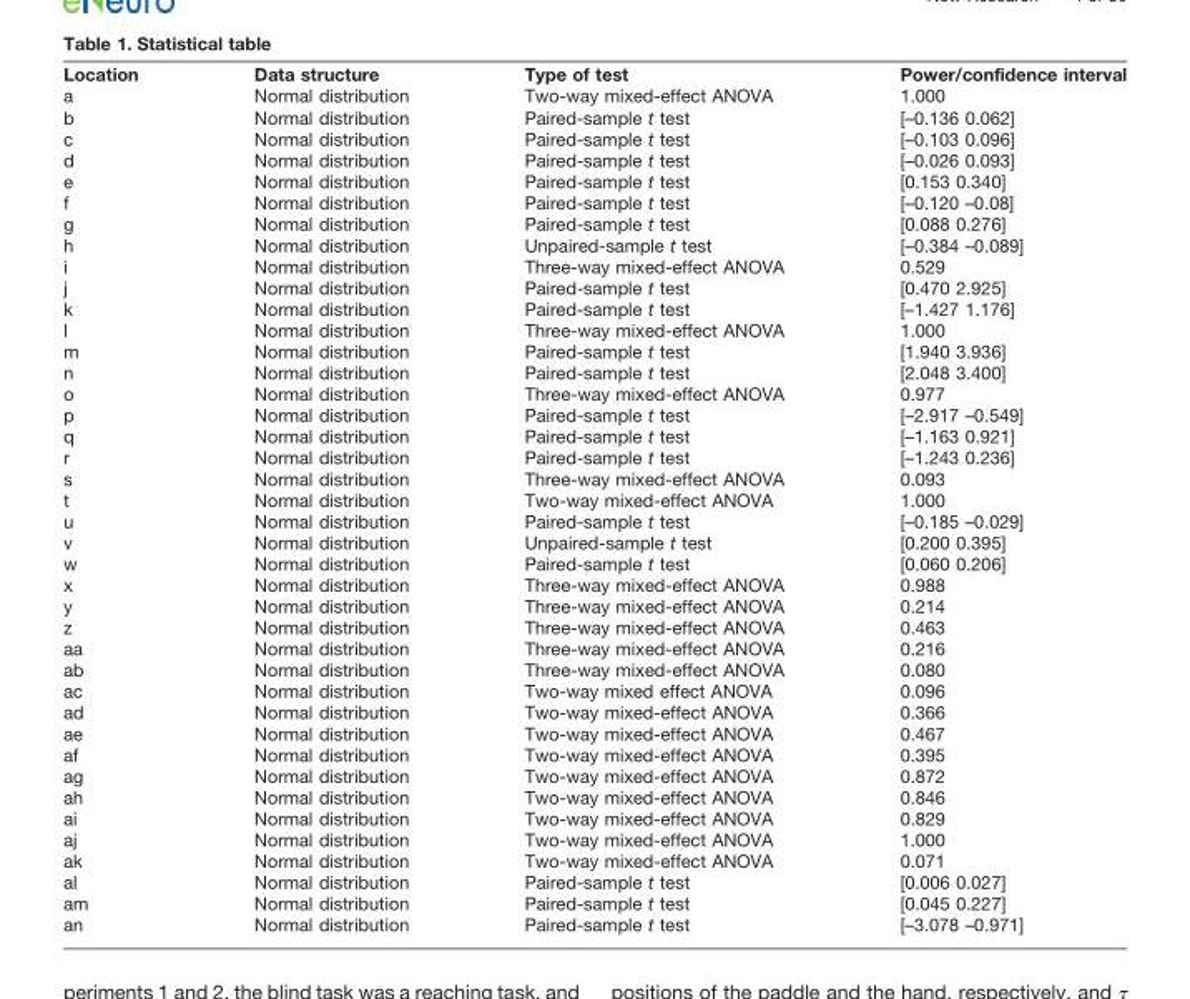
<table><thead><tr><td>Location</td><td>Data structure</td><td>Type of test</td><td>Power/confidence interval</td></tr></thead><tbody><tr><td>a</td><td>Normal distribution</td><td>Two-way mixed-effect ANOVA</td><td>1.000</td></tr><tr><td>b</td><td>Normal distribution</td><td>Paired-sample t test</td><td>[–0.136 0.062]</td></tr><tr><td>c</td><td>Normal distribution</td><td>Paired-sample t test</td><td>[–0.103 0.096]</td></tr><tr><td>d</td><td>Normal distribution</td><td>Paired-sample t test</td><td>[–0.026 0.093]</td></tr><tr><td>e</td><td>Normal distribution</td><td>Paired-sample t test</td><td>[0.153 0.340]</td></tr><tr><td>f</td><td>Normal distribution</td><td>Paired-sample t test</td><td>[–0.120 –0.08]</td></tr><tr><td>g</td><td>Normal distribution</td><td>Paired-sample t test</td><td>[0.088 0.276]</td></tr><tr><td>h</td><td>Normal distribution</td><td>Unpaired-sample t test</td><td>[–0.384 –0.089]</td></tr><tr><td>i</td><td>Normal distribution</td><td>Three-way mixed-effect ANOVA</td><td>0.529</td></tr><tr><td>j</td><td>Normal distribution</td><td>Paired-sample t test</td><td>[0.470 2.925]</td></tr><tr><td>k</td><td>Normal distribution</td><td>Paired-sample t test</td><td>[–1.427 1.176]</td></tr><tr><td>l</td><td>Normal distribution</td><td>Three-way mixed-effect ANOVA</td><td>1.000</td></tr><tr><td>m</td><td>Normal distribution</td><td>Paired-sample t test</td><td>[1.940 3.936]</td></tr><tr><td>n</td><td>Normal distribution</td><td>Paired-sample t test</td><td>[2.048 3.400]</td></tr><tr><td>o</td><td>Normal distribution</td><td>Three-way mixed-effect ANOVA</td><td>0.977</td></tr><tr><td>p</td><td>Normal distribution</td><td>Paired-sample t test</td><td>[–2.917 –0.549]</td></tr><tr><td>q</td><td>Normal distribution</td><td>Paired-sample t test</td><td>[–1.163 0.921]</td></tr><tr><td>r</td><td>Normal distribution</td><td>Paired-sample t test</td><td>[–1.243 0.236]</td></tr><tr><td>s</td><td>Normal distribution</td><td>Three-way mixed-effect ANOVA</td><td>0.093</td></tr><tr><td>t</td><td>Normal distribution</td><td>Two-way mixed-effect ANOVA</td><td>1.000</td></tr><tr><td>u</td><td>Normal distribution</td><td>Paired-sample t test</td><td>[–0.185 –0.029]</td></tr><tr><td>v</td><td>Normal distribution</td><td>Unpaired-sample t test</td><td>[0.200 0.395]</td></tr><tr><td>w</td><td>Normal distribution</td><td>Paired-sample t test</td><td>[0.060 0.206]</td></tr><tr><td>x</td><td>Normal distribution</td><td>Three-way mixed-effect ANOVA</td><td>0.988</td></tr><tr><td>y</td><td>Normal distribution</td><td>Three-way mixed-effect ANOVA</td><td>0.214</td></tr><tr><td>z</td><td>Normal distribution</td><td>Three-way mixed-effect ANOVA</td><td>0.463</td></tr><tr><td>aa</td><td>Normal distribution</td><td>Three-way mixed-effect ANOVA</td><td>0.216</td></tr><tr><td>ab</td><td>Normal distribution</td><td>Three-way mixed-effect ANOVA</td><td>0.080</td></tr><tr><td>ac</td><td>Normal distribution</td><td>Two-way mixed effect ANOVA</td><td>0.096</td></tr><tr><td>ad</td><td>Normal distribution</td><td>Two-way mixed-effect ANOVA</td><td>0.366</td></tr><tr><td>ae</td><td>Normal distribution</td><td>Two-way mixed-effect ANOVA</td><td>0.467</td></tr><tr><td>af</td><td>Normal distribution</td><td>Two-way mixed-effect ANOVA</td><td>0.395</td></tr><tr><td>ag</td><td>Normal distribution</td><td>Two-way mixed-effect ANOVA</td><td>0.872</td></tr><tr><td>ah</td><td>Normal distribution</td><td>Two-way mixed-effect ANOVA</td><td>0.846</td></tr><tr><td>ai</td><td>Normal distribution</td><td>Two-way mixed-effect ANOVA</td><td>0.829</td></tr><tr><td>aj</td><td>Normal distribution</td><td>Two-way mixed-effect ANOVA</td><td>1.000</td></tr><tr><td>ak</td><td>Normal distribution</td><td>Two-way mixed-effect ANOVA</td><td>0.071</td></tr><tr><td>al</td><td>Normal distribution</td><td>Paired-sample t test</td><td>[0.006 0.027]</td></tr><tr><td>am</td><td>Normal distribution</td><td>Paired-sample t test</td><td>[0.045 0.227]</td></tr><tr><td>an</td><td>Normal distribution</td><td>Paired-sample t test</td><td>[–3.078 –0.971]</td></tr></tbody></table>